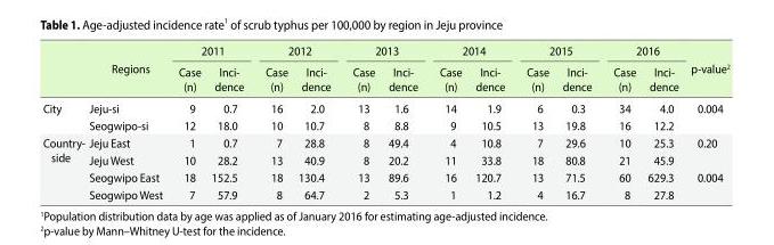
<table><thead><tr><td rowspan="2"></td><td rowspan="2">Regions</td><td colspan="2">2011</td><td colspan="2">2012</td><td colspan="2">2013</td><td colspan="2">2014</td><td colspan="2">2015</td><td colspan="2">2016</td><td rowspan="2">p-value<sup>2</sup></td></tr><tr><td>Case (n)</td><td>Inci- dence</td><td>Case (n)</td><td>Inci- dence</td><td>Case (n)</td><td>Inci- dence</td><td>Case (n)</td><td>Inci- dence</td><td>Case (n)</td><td>Inci- dence</td><td>Case (n)</td><td>Inci- dence</td></tr></thead><tbody><tr><td rowspan="2">City</td><td>Jeju-si</td><td>9</td><td>0.7</td><td>16</td><td>2.0</td><td>13</td><td>1.6</td><td>14</td><td>1.9</td><td>6</td><td>0.3</td><td>34</td><td>4.0</td><td>0.004</td></tr><tr><td>Seogwipo-si</td><td>12</td><td>18.0</td><td>10</td><td>10.7</td><td>8</td><td>8.8</td><td>9</td><td>10.5</td><td>13</td><td>19.8</td><td>16</td><td>12.2</td><td></td></tr><tr><td rowspan="4">Country- side</td><td>Jeju East</td><td>1</td><td>0.7</td><td>7</td><td>28.8</td><td>8</td><td>49.4</td><td>4</td><td>10.8</td><td>7</td><td>29.6</td><td>10</td><td>25.3</td><td>0.20</td></tr><tr><td>Jeju West</td><td>10</td><td>28.2</td><td>13</td><td>40.9</td><td>8</td><td>20.2</td><td>11</td><td>33.8</td><td>18</td><td>80.8</td><td>21</td><td>45.9</td><td></td></tr><tr><td>Seogwipo East</td><td>18</td><td>152.5</td><td>18</td><td>130.4</td><td>13</td><td>89.6</td><td>16</td><td>120.7</td><td>13</td><td>71.5</td><td>60</td><td>629.3</td><td>0.004</td></tr><tr><td>Seogwipo West</td><td>7</td><td>57.9</td><td>8</td><td>64.7</td><td>2</td><td>5.3</td><td>1</td><td>1.2</td><td>4</td><td>16.7</td><td>8</td><td>27.8</td><td></td></tr></tbody></table>